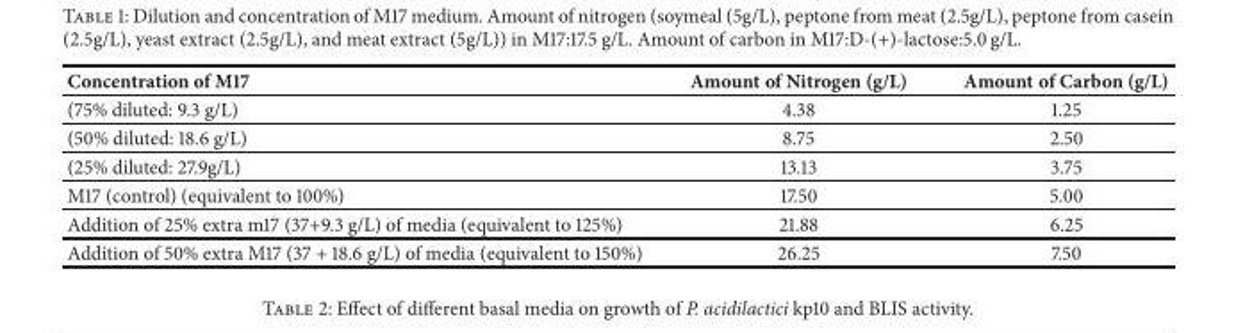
<table><thead><tr><td>Concentration of M17</td><td>Amount of Nitrogen (g/L)</td><td>Amount of Carbon (g/L)</td></tr></thead><tbody><tr><td>(75% diluted: 9.3 g/L)</td><td>4.38</td><td>1.25</td></tr><tr><td>(50% diluted: 18.6 g/L)</td><td>8.75</td><td>2.50</td></tr><tr><td>(25% diluted: 27.9g/L)</td><td>13.13</td><td>3.75</td></tr><tr><td>M17 (control) (equivalent to 100%)</td><td>17.50</td><td>5.00</td></tr><tr><td>Addition of 25% extra m17 (37+9.3 g/L) of media (equivalent to 125%)</td><td>21.88</td><td>6.25</td></tr><tr><td>Addition of 50% extra M17 (37 + 18.6 g/L) of media (equivalent to 150%)</td><td>26.25</td><td>7.50</td></tr></tbody></table>